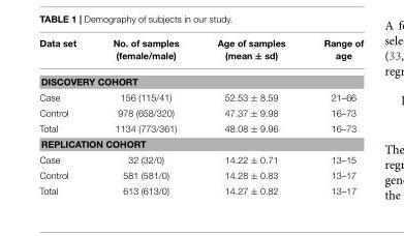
<table><thead><tr><td>Data set</td><td>No. of samples (female/male)</td><td>Age of samples (mean ± sd)</td><td>Range of age</td></tr></thead><tbody><tr><td colspan="4">DISCOVERY COHORT</td></tr><tr><td>Case</td><td>156 (115/41)</td><td>52.53 ± 8.59</td><td>21–66</td></tr><tr><td>Control</td><td>978 (658/320)</td><td>47.37 ± 9.98</td><td>16–73</td></tr><tr><td>Total</td><td>1134 (773/361)</td><td>48.08 ± 9.96</td><td>16–73</td></tr><tr><td colspan="4">REPLICATION COHORT</td></tr><tr><td>Case</td><td>32 (32/0)</td><td>14.22 ± 0.71</td><td>13–15</td></tr><tr><td>Control</td><td>581 (581/0)</td><td>14.28 ± 0.83</td><td>13–17</td></tr><tr><td>Total</td><td>613 (613/0)</td><td>14.27 ± 0.82</td><td>13–17</td></tr></tbody></table>